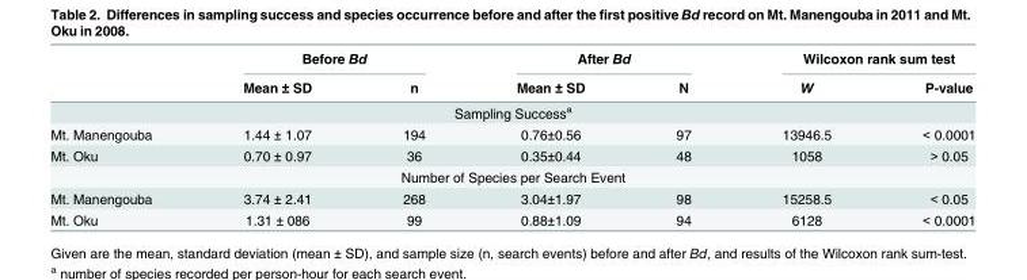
<table><thead><tr><td rowspan="2"></td><td colspan="2">Before Bd</td><td colspan="2">After Bd</td><td colspan="2">Wilcoxon rank sum test</td></tr><tr><td>Mean ± SD</td><td>n</td><td>Mean ± SD</td><td>N</td><td>W</td><td>P-value</td></tr></thead><tbody><tr><td colspan="7">Sampling Success<sup>a</sup></td></tr><tr><td>Mt. Manengouba</td><td>1.44 ± 1.07</td><td>194</td><td>0.76±0.56</td><td>97</td><td>13946.5</td><td>&lt; 0.0001</td></tr><tr><td>Mt. Oku</td><td>0.70 ± 0.97</td><td>36</td><td>0.35±0.44</td><td>48</td><td>1058</td><td>&gt; 0.05</td></tr><tr><td colspan="7">Number of Species per Search Event</td></tr><tr><td>Mt. Manengouba</td><td>3.74 ± 2.41</td><td>268</td><td>3.04±1.97</td><td>98</td><td>15258.5</td><td>&lt; 0.05</td></tr><tr><td>Mt. Oku</td><td>1.31 ± 086</td><td>99</td><td>0.88±1.09</td><td>94</td><td>6128</td><td>&lt; 0.0001</td></tr></tbody></table>